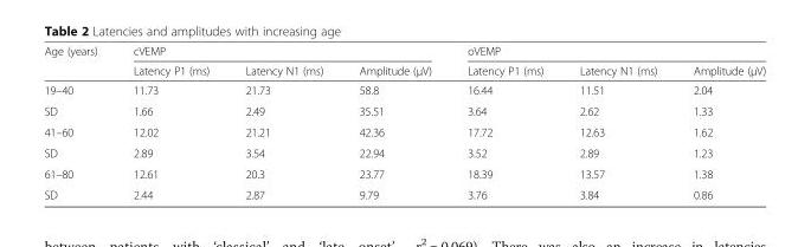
<table><thead><tr><td rowspan="2">Age (years)</td><td colspan="3">cVEMP</td><td colspan="3">oVEMP</td></tr><tr><td>Latency P1 (ms)</td><td>Latency N1 (ms)</td><td>Amplitude (μV)</td><td>Latency P1 (ms)</td><td>Latency N1 (ms)</td><td>Amplitude (μV)</td></tr></thead><tbody><tr><td>19–40</td><td>11.73</td><td>21.73</td><td>58.8</td><td>16.44</td><td>11.51</td><td>2.04</td></tr><tr><td>SD</td><td>1.66</td><td>2.49</td><td>35.51</td><td>3.64</td><td>2.62</td><td>1.33</td></tr><tr><td>41–60</td><td>12.02</td><td>21.21</td><td>42.36</td><td>17.72</td><td>12.63</td><td>1.62</td></tr><tr><td>SD</td><td>2.89</td><td>3.54</td><td>22.94</td><td>3.52</td><td>2.89</td><td>1.23</td></tr><tr><td>61–80</td><td>12.61</td><td>20.3</td><td>23.77</td><td>18.39</td><td>13.57</td><td>1.38</td></tr><tr><td>SD</td><td>2.44</td><td>2.87</td><td>9.79</td><td>3.76</td><td>3.84</td><td>0.86</td></tr></tbody></table>